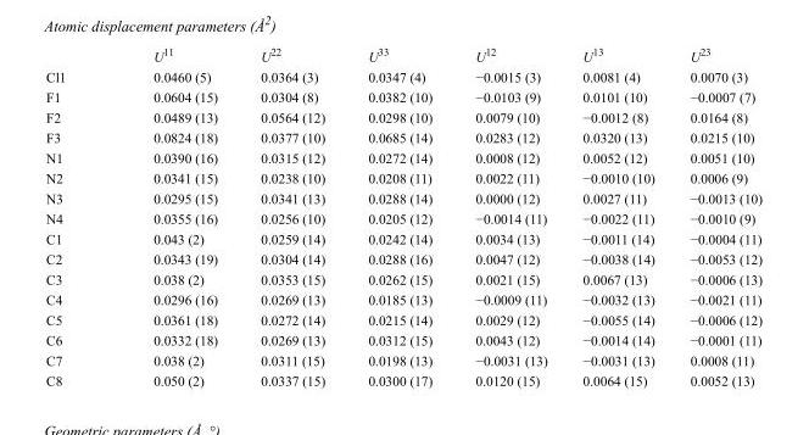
<table><thead><tr><td></td><td>U<sup>11</sup></td><td>U<sup>22</sup></td><td>U<sup>33</sup></td><td>U<sup>12</sup></td><td>U<sup>13</sup></td><td>U<sup>23</sup></td></tr></thead><tbody><tr><td>Cl1</td><td>0.0460 (5)</td><td>0.0364 (3)</td><td>0.0347 (4)</td><td>−0.0015 (3)</td><td>0.0081 (4)</td><td>0.0070 (3)</td></tr><tr><td>F1</td><td>0.0604 (15)</td><td>0.0304 (8)</td><td>0.0382 (10)</td><td>−0.0103 (9)</td><td>0.0101 (10)</td><td>−0.0007 (7)</td></tr><tr><td>F2</td><td>0.0489 (13)</td><td>0.0564 (12)</td><td>0.0298 (10)</td><td>0.0079 (10)</td><td>−0.0012 (8)</td><td>0.0164 (8)</td></tr><tr><td>F3</td><td>0.0824 (18)</td><td>0.0377 (10)</td><td>0.0685 (14)</td><td>0.0283 (12)</td><td>0.0320 (13)</td><td>0.0215 (10)</td></tr><tr><td>N1</td><td>0.0390 (16)</td><td>0.0315 (12)</td><td>0.0272 (14)</td><td>0.0008 (12)</td><td>0.0052 (12)</td><td>0.0051 (10)</td></tr><tr><td>N2</td><td>0.0341 (15)</td><td>0.0238 (10)</td><td>0.0208 (11)</td><td>0.0022 (11)</td><td>−0.0010 (10)</td><td>0.0006 (9)</td></tr><tr><td>N3</td><td>0.0295 (15)</td><td>0.0341 (13)</td><td>0.0288 (14)</td><td>0.0000 (12)</td><td>0.0027 (11)</td><td>−0.0013 (10)</td></tr><tr><td>N4</td><td>0.0355 (16)</td><td>0.0256 (10)</td><td>0.0205 (12)</td><td>−0.0014 (11)</td><td>−0.0022 (11)</td><td>−0.0010 (9)</td></tr><tr><td>C1</td><td>0.043 (2)</td><td>0.0259 (14)</td><td>0.0242 (14)</td><td>0.0034 (13)</td><td>−0.0011 (14)</td><td>−0.0004 (11)</td></tr><tr><td>C2</td><td>0.0343 (19)</td><td>0.0304 (14)</td><td>0.0288 (16)</td><td>0.0047 (12)</td><td>−0.0038 (14)</td><td>−0.0053 (12)</td></tr><tr><td>C3</td><td>0.038 (2)</td><td>0.0353 (15)</td><td>0.0262 (15)</td><td>0.0021 (15)</td><td>0.0067 (13)</td><td>−0.0006 (13)</td></tr><tr><td>C4</td><td>0.0296 (16)</td><td>0.0269 (13)</td><td>0.0185 (13)</td><td>−0.0009 (11)</td><td>−0.0032 (13)</td><td>−0.0021 (11)</td></tr><tr><td>C5</td><td>0.0361 (18)</td><td>0.0272 (14)</td><td>0.0215 (14)</td><td>0.0029 (12)</td><td>−0.0055 (14)</td><td>−0.0006 (12)</td></tr><tr><td>C6</td><td>0.0332 (18)</td><td>0.0269 (13)</td><td>0.0312 (15)</td><td>0.0043 (12)</td><td>−0.0014 (14)</td><td>−0.0001 (11)</td></tr><tr><td>C7</td><td>0.038 (2)</td><td>0.0311 (15)</td><td>0.0198 (13)</td><td>−0.0031 (13)</td><td>−0.0031 (13)</td><td>0.0008 (11)</td></tr><tr><td>C8</td><td>0.050 (2)</td><td>0.0337 (15)</td><td>0.0300 (17)</td><td>0.0120 (15)</td><td>0.0064 (15)</td><td>0.0052 (13)</td></tr></tbody></table>